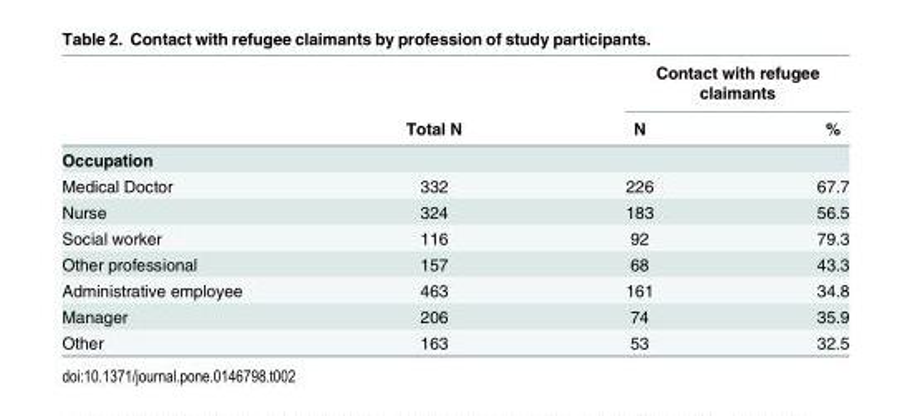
<table><thead><tr><td rowspan="2"></td><td rowspan="2">Total N</td><td colspan="2">Contact with refugee claimants</td></tr><tr><td>N</td><td>%</td></tr></thead><tbody><tr><td colspan="4">Occupation</td></tr><tr><td>Medical Doctor</td><td>332</td><td>226</td><td>67.7</td></tr><tr><td>Nurse</td><td>324</td><td>183</td><td>56.5</td></tr><tr><td>Social worker</td><td>116</td><td>92</td><td>79.3</td></tr><tr><td>Other professional</td><td>157</td><td>68</td><td>43.3</td></tr><tr><td>Administrative employee</td><td>463</td><td>161</td><td>34.8</td></tr><tr><td>Manager</td><td>206</td><td>74</td><td>35.9</td></tr><tr><td>Other</td><td>163</td><td>53</td><td>32.5</td></tr></tbody></table>